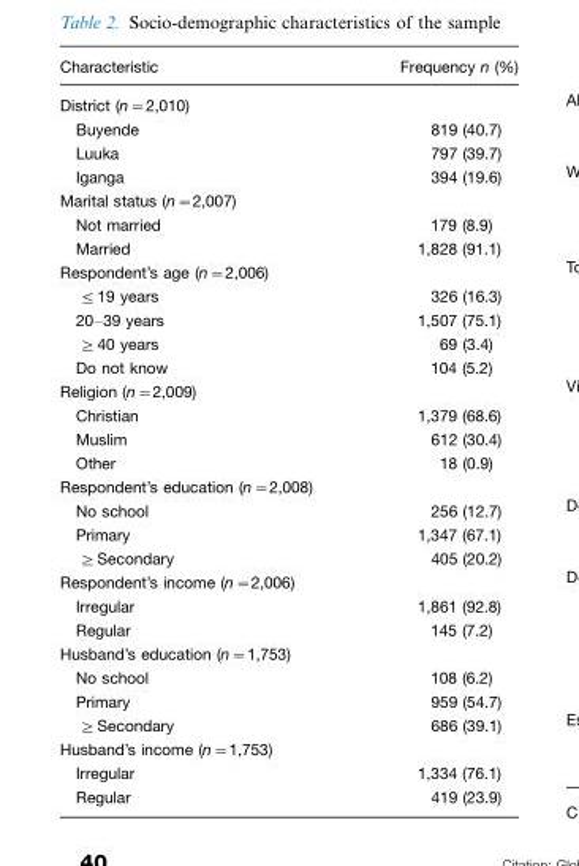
<table><thead><tr><td>Characteristic</td><td>Frequency n (%)</td></tr></thead><tbody><tr><td colspan="2">District (n=2,010)</td></tr><tr><td>Buyende</td><td>819 (40.7)</td></tr><tr><td>Luuka</td><td>797 (39.7)</td></tr><tr><td>Iganga</td><td>394 (19.6)</td></tr><tr><td colspan="2">Marital status (n=2,007)</td></tr><tr><td>Not married</td><td>179 (8.9)</td></tr><tr><td>Married</td><td>1,828 (91.1)</td></tr><tr><td colspan="2">Respondent’s age (n=2,006)</td></tr><tr><td>≤19 years</td><td>326 (16.3)</td></tr><tr><td>20–39 years</td><td>1,507 (75.1)</td></tr><tr><td>≥40 years</td><td>69 (3.4)</td></tr><tr><td>Do not know</td><td>104 (5.2)</td></tr><tr><td colspan="2">Religion (n=2,009)</td></tr><tr><td>Christian</td><td>1,379 (68.6)</td></tr><tr><td>Muslim</td><td>612 (30.4)</td></tr><tr><td>Other</td><td>18 (0.9)</td></tr><tr><td colspan="2">Respondent’s education (n=2,008)</td></tr><tr><td>No school</td><td>256 (12.7)</td></tr><tr><td>Primary</td><td>1,347 (67.1)</td></tr><tr><td>≥Secondary</td><td>405 (20.2)</td></tr><tr><td colspan="2">Respondent’s income (n=2,006)</td></tr><tr><td>Irregular</td><td>1,861 (92.8)</td></tr><tr><td>Regular</td><td>145 (7.2)</td></tr><tr><td colspan="2">Husband’s education (n=1,753)</td></tr><tr><td>No school</td><td>108 (6.2)</td></tr><tr><td>Primary</td><td>959 (54.7)</td></tr><tr><td>≥Secondary</td><td>686 (39.1)</td></tr><tr><td colspan="2">Husband’s income (n=1,753)</td></tr><tr><td>Irregular</td><td>1,334 (76.1)</td></tr><tr><td>Regular</td><td>419 (23.9)</td></tr></tbody></table>